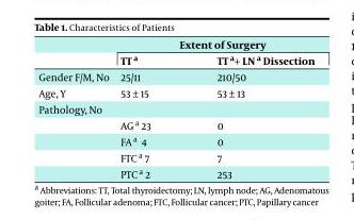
<table><thead><tr><td rowspan="2"></td><td colspan="2">Extent of Surgery</td></tr><tr><td>TT a</td><td>TT a+ LN a Dissection</td></tr></thead><tbody><tr><td>Gender F/M, No</td><td>25/11</td><td>210/50</td></tr><tr><td>Age, Y</td><td>53 ± 15</td><td>53 ± 13</td></tr><tr><td colspan="3">Pathology, No</td></tr><tr><td></td><td>AG a 23</td><td>0</td></tr><tr><td></td><td>FA a 4</td><td>0</td></tr><tr><td></td><td>FTC a 7</td><td>7</td></tr><tr><td></td><td>PTC a 2</td><td>253</td></tr></tbody></table>